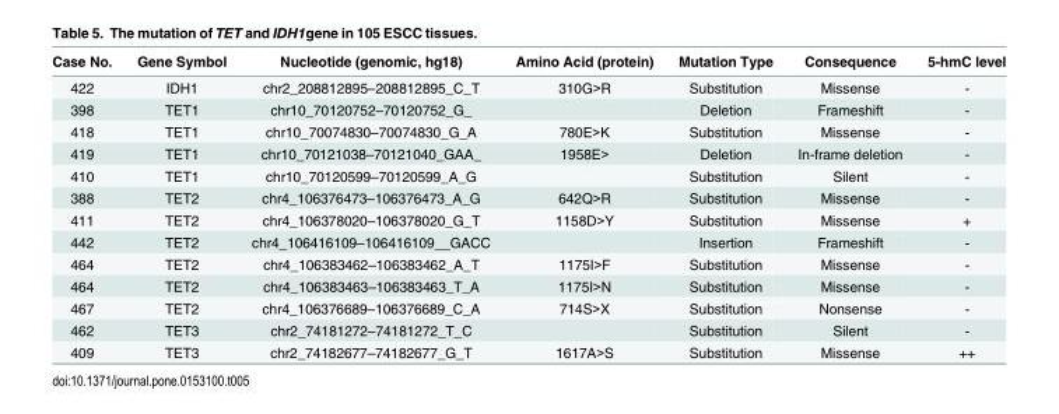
<table><thead><tr><td>Case No.</td><td>Gene Symbol</td><td>Nucleotide (genomic, hg18)</td><td>Amino Acid (protein)</td><td>Mutation Type</td><td>Consequence</td><td>5-hmC level</td></tr></thead><tbody><tr><td>422</td><td>IDH1</td><td>chr2_208812895–208812895_C_T</td><td>310G&gt;R</td><td>Substitution</td><td>Missense</td><td>-</td></tr><tr><td>398</td><td>TET1</td><td>chr10_70120752–70120752_G_</td><td></td><td>Deletion</td><td>Frameshift</td><td>-</td></tr><tr><td>418</td><td>TET1</td><td>chr10_70074830–70074830_G_A</td><td>780E&gt;K</td><td>Substitution</td><td>Missense</td><td>-</td></tr><tr><td>419</td><td>TET1</td><td>chr10_70121038–70121040_GAA_</td><td>1958E&gt;</td><td>Deletion</td><td>In-frame deletion</td><td>-</td></tr><tr><td>410</td><td>TET1</td><td>chr10_70120599–70120599_A_G</td><td></td><td>Substitution</td><td>Silent</td><td>-</td></tr><tr><td>388</td><td>TET2</td><td>chr4_106376473–106376473_A_G</td><td>642Q&gt;R</td><td>Substitution</td><td>Missense</td><td>-</td></tr><tr><td>411</td><td>TET2</td><td>chr4_106378020–106378020_G_T</td><td>1158D&gt;Y</td><td>Substitution</td><td>Missense</td><td>+</td></tr><tr><td>442</td><td>TET2</td><td>chr4_106416109–106416109__GACC</td><td></td><td>Insertion</td><td>Frameshift</td><td>-</td></tr><tr><td>464</td><td>TET2</td><td>chr4_106383462–106383462_A_T</td><td>1175I&gt;F</td><td>Substitution</td><td>Missense</td><td>-</td></tr><tr><td>464</td><td>TET2</td><td>chr4_106383463–106383463_T_A</td><td>1175I&gt;N</td><td>Substitution</td><td>Missense</td><td>-</td></tr><tr><td>467</td><td>TET2</td><td>chr4_106376689–106376689_C_A</td><td>714S&gt;X</td><td>Substitution</td><td>Nonsense</td><td>-</td></tr><tr><td>462</td><td>TET3</td><td>chr2_74181272–74181272_T_C</td><td></td><td>Substitution</td><td>Silent</td><td>-</td></tr><tr><td>409</td><td>TET3</td><td>chr2_74182677–74182677_G_T</td><td>1617A&gt;S</td><td>Substitution</td><td>Missense</td><td>++</td></tr></tbody></table>